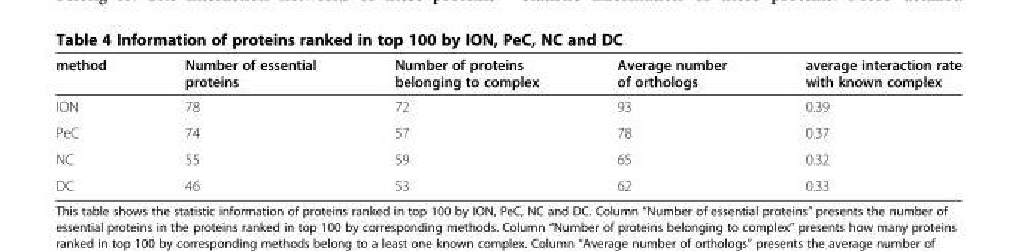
<table><thead><tr><td>method</td><td>Number of essential proteins</td><td>Number of proteins belonging to complex</td><td>Average number of orthologs</td><td>average interaction rate with known complex</td></tr></thead><tbody><tr><td>ION</td><td>78</td><td>72</td><td>93</td><td>0.39</td></tr><tr><td>PeC</td><td>74</td><td>57</td><td>78</td><td>0.37</td></tr><tr><td>NC</td><td>55</td><td>59</td><td>65</td><td>0.32</td></tr><tr><td>DC</td><td>46</td><td>53</td><td>62</td><td>0.33</td></tr></tbody></table>